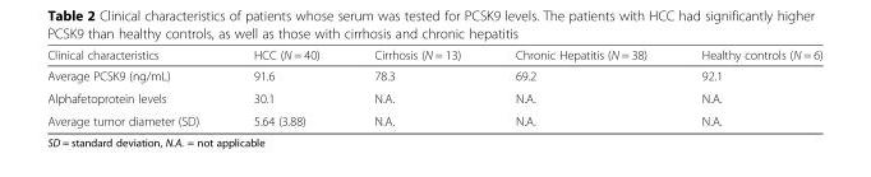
<table><thead><tr><td>Clinical characteristics</td><td>HCC (N = 40)</td><td>Cirrhosis (N = 13)</td><td>Chronic Hepatitis (N = 38)</td><td>Healthy controls (N = 6)</td></tr></thead><tbody><tr><td>Average PCSK9 (ng/mL)</td><td>91.6</td><td>78.3</td><td>69.2</td><td>92.1</td></tr><tr><td>Alphafetoprotein levels</td><td>30.1</td><td>N.A.</td><td>N.A.</td><td>N.A.</td></tr><tr><td>Average tumor diameter (SD)</td><td>5.64 (3.88)</td><td>N.A.</td><td>N.A.</td><td>N.A.</td></tr></tbody></table>